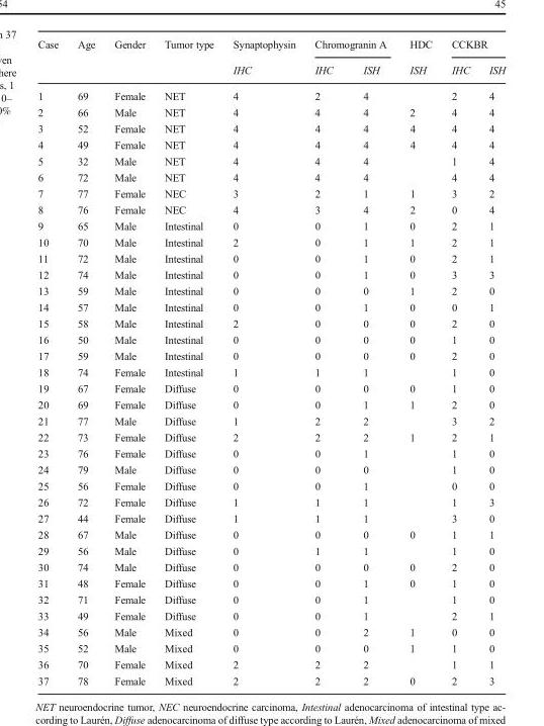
<table><thead><tr><td rowspan="2">Case</td><td rowspan="2">Age</td><td rowspan="2">Gender</td><td rowspan="2">Tumor type</td><td rowspan="2">Synaptophysin IHC</td><td colspan="2">Chromogranin A</td><td rowspan="2">HDC ISH</td><td colspan="2">CCKBR</td></tr><tr><td>IHC</td><td>ISH</td><td>IHC</td><td>ISH</td></tr></thead><tbody><tr><td>1</td><td>69</td><td>Female</td><td>NET</td><td>4</td><td>2</td><td>4</td><td></td><td>2</td><td>4</td></tr><tr><td>2</td><td>66</td><td>Male</td><td>NET</td><td>4</td><td>4</td><td>4</td><td>2</td><td>4</td><td>4</td></tr><tr><td>3</td><td>52</td><td>Female</td><td>NET</td><td>4</td><td>4</td><td>4</td><td>4</td><td>4</td><td>4</td></tr><tr><td>4</td><td>49</td><td>Female</td><td>NET</td><td>4</td><td>4</td><td>4</td><td>4</td><td>4</td><td>4</td></tr><tr><td>5</td><td>32</td><td>Male</td><td>NET</td><td>4</td><td>4</td><td>4</td><td></td><td>1</td><td>4</td></tr><tr><td>6</td><td>72</td><td>Male</td><td>NET</td><td>4</td><td>4</td><td>4</td><td></td><td>4</td><td>4</td></tr><tr><td>7</td><td>77</td><td>Female</td><td>NEC</td><td>3</td><td>2</td><td>1</td><td>1</td><td>3</td><td>2</td></tr><tr><td>8</td><td>76</td><td>Female</td><td>NEC</td><td>4</td><td>3</td><td>4</td><td>2</td><td>0</td><td>4</td></tr><tr><td>9</td><td>65</td><td>Male</td><td>Intestinal</td><td>0</td><td>0</td><td>1</td><td>0</td><td>2</td><td>1</td></tr><tr><td>10</td><td>70</td><td>Male</td><td>Intestinal</td><td>2</td><td>0</td><td>1</td><td>1</td><td>2</td><td>1</td></tr><tr><td>11</td><td>72</td><td>Male</td><td>Intestinal</td><td>0</td><td>0</td><td>1</td><td>0</td><td>2</td><td>1</td></tr><tr><td>12</td><td>74</td><td>Male</td><td>Intestinal</td><td>0</td><td>0</td><td>1</td><td>0</td><td>3</td><td>3</td></tr><tr><td>13</td><td>59</td><td>Male</td><td>Intestinal</td><td>0</td><td>0</td><td>0</td><td>1</td><td>2</td><td>0</td></tr><tr><td>14</td><td>57</td><td>Male</td><td>Intestinal</td><td>0</td><td>0</td><td>1</td><td>0</td><td>0</td><td>1</td></tr><tr><td>15</td><td>58</td><td>Male</td><td>Intestinal</td><td>2</td><td>0</td><td>0</td><td>0</td><td>2</td><td>0</td></tr><tr><td>16</td><td>50</td><td>Male</td><td>Intestinal</td><td>0</td><td>0</td><td>0</td><td>0</td><td>1</td><td>0</td></tr><tr><td>17</td><td>59</td><td>Male</td><td>Intestinal</td><td>0</td><td>0</td><td>0</td><td>0</td><td>2</td><td>0</td></tr><tr><td>18</td><td>74</td><td>Female</td><td>Intestinal</td><td>1</td><td>1</td><td>1</td><td></td><td>1</td><td>0</td></tr><tr><td>19</td><td>67</td><td>Female</td><td>Diffuse</td><td>0</td><td>0</td><td>0</td><td>0</td><td>1</td><td>0</td></tr><tr><td>20</td><td>69</td><td>Female</td><td>Diffuse</td><td>0</td><td>0</td><td>1</td><td>1</td><td>2</td><td>0</td></tr><tr><td>21</td><td>77</td><td>Male</td><td>Diffuse</td><td>1</td><td>2</td><td>2</td><td></td><td>3</td><td>2</td></tr><tr><td>22</td><td>73</td><td>Female</td><td>Diffuse</td><td>2</td><td>2</td><td>2</td><td>1</td><td>2</td><td>1</td></tr><tr><td>23</td><td>76</td><td>Female</td><td>Diffuse</td><td>0</td><td>0</td><td>1</td><td></td><td>1</td><td>0</td></tr><tr><td>24</td><td>79</td><td>Male</td><td>Diffuse</td><td>0</td><td>0</td><td>0</td><td></td><td>1</td><td>0</td></tr><tr><td>25</td><td>56</td><td>Female</td><td>Diffuse</td><td>0</td><td>0</td><td>1</td><td></td><td>0</td><td>0</td></tr><tr><td>26</td><td>72</td><td>Female</td><td>Diffuse</td><td>1</td><td>1</td><td>1</td><td></td><td>1</td><td>3</td></tr><tr><td>27</td><td>44</td><td>Female</td><td>Diffuse</td><td>1</td><td>1</td><td>1</td><td></td><td>3</td><td>0</td></tr><tr><td>28</td><td>67</td><td>Male</td><td>Diffuse</td><td>0</td><td>0</td><td>0</td><td>0</td><td>1</td><td>1</td></tr><tr><td>29</td><td>56</td><td>Male</td><td>Diffuse</td><td>0</td><td>1</td><td>1</td><td></td><td>1</td><td>0</td></tr><tr><td>30</td><td>74</td><td>Male</td><td>Diffuse</td><td>0</td><td>0</td><td>0</td><td>0</td><td>2</td><td>0</td></tr><tr><td>31</td><td>48</td><td>Female</td><td>Diffuse</td><td>0</td><td>0</td><td>1</td><td>0</td><td>1</td><td>0</td></tr><tr><td>32</td><td>71</td><td>Female</td><td>Diffuse</td><td>0</td><td>0</td><td>1</td><td></td><td>1</td><td>0</td></tr><tr><td>33</td><td>49</td><td>Female</td><td>Diffuse</td><td>0</td><td>0</td><td>1</td><td></td><td>2</td><td>1</td></tr><tr><td>34</td><td>56</td><td>Male</td><td>Mixed</td><td>0</td><td>0</td><td>2</td><td>1</td><td>0</td><td>0</td></tr><tr><td>35</td><td>52</td><td>Male</td><td>Mixed</td><td>0</td><td>0</td><td>0</td><td>1</td><td>1</td><td>0</td></tr><tr><td>36</td><td>70</td><td>Female</td><td>Mixed</td><td>2</td><td>2</td><td>2</td><td></td><td>1</td><td>1</td></tr><tr><td>37</td><td>78</td><td>Female</td><td>Mixed</td><td>2</td><td>2</td><td>2</td><td>0</td><td>2</td><td>3</td></tr></tbody></table>